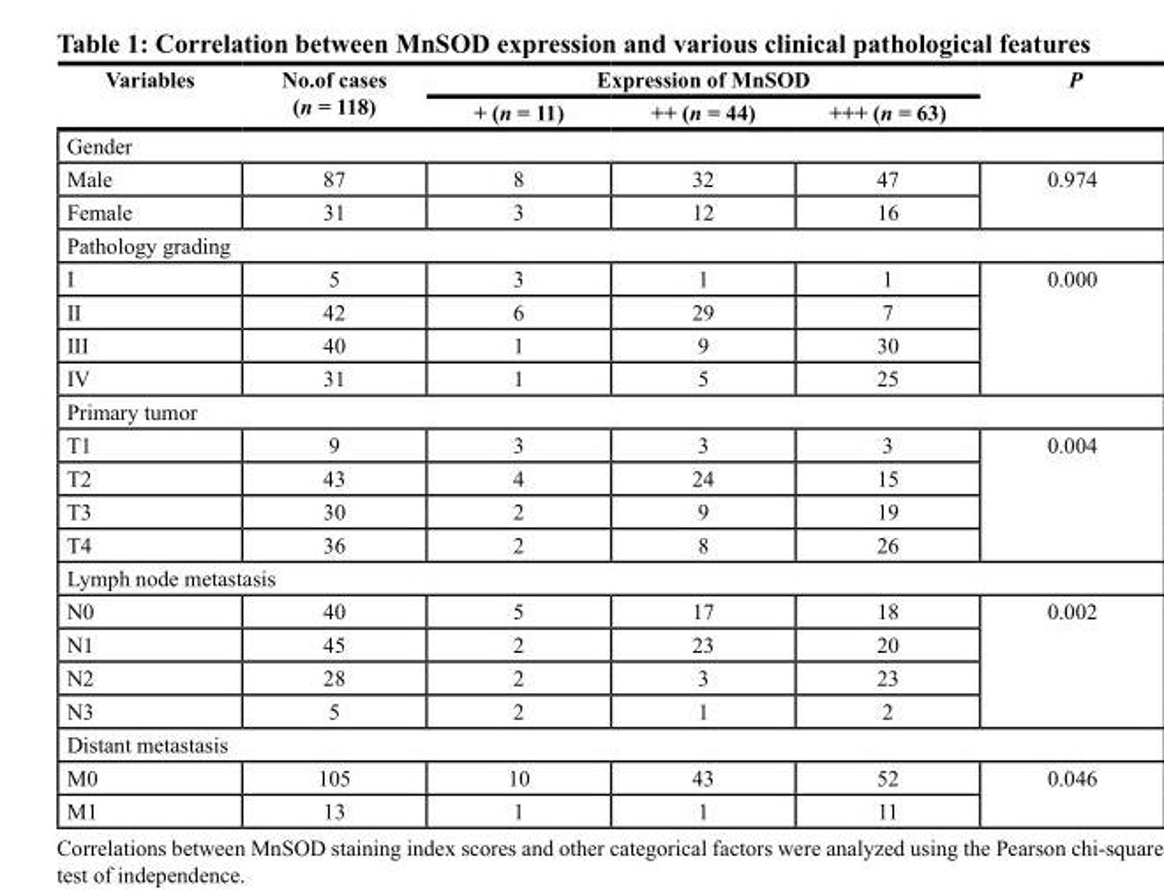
<table><thead><tr><td rowspan="2">Variables</td><td rowspan="2">No.of cases (n = 118)</td><td colspan="3">Expression of MnSOD</td><td rowspan="2">P</td></tr><tr><td>+ (n = 11)</td><td>++ (n = 44)</td><td>+++ (n = 63)</td></tr></thead><tbody><tr><td colspan="6">Gender</td></tr><tr><td>Male</td><td>87</td><td>8</td><td>32</td><td>47</td><td rowspan="2">0.974</td></tr><tr><td>Female</td><td>31</td><td>3</td><td>12</td><td>16</td></tr><tr><td colspan="6">Pathology grading</td></tr><tr><td>I</td><td>5</td><td>3</td><td>1</td><td>1</td><td rowspan="4">0.000</td></tr><tr><td>II</td><td>42</td><td>6</td><td>29</td><td>7</td></tr><tr><td>III</td><td>40</td><td>1</td><td>9</td><td>30</td></tr><tr><td>IV</td><td>31</td><td>1</td><td>5</td><td>25</td></tr><tr><td colspan="6">Primary tumor</td></tr><tr><td>T1</td><td>9</td><td>3</td><td>3</td><td>3</td><td rowspan="4">0.004</td></tr><tr><td>T2</td><td>43</td><td>4</td><td>24</td><td>15</td></tr><tr><td>T3</td><td>30</td><td>2</td><td>9</td><td>19</td></tr><tr><td>T4</td><td>36</td><td>2</td><td>8</td><td>26</td></tr><tr><td colspan="6">Lymph node metastasis</td></tr><tr><td>N0</td><td>40</td><td>5</td><td>17</td><td>18</td><td rowspan="4">0.002</td></tr><tr><td>N1</td><td>45</td><td>2</td><td>23</td><td>20</td></tr><tr><td>N2</td><td>28</td><td>2</td><td>3</td><td>23</td></tr><tr><td>N3</td><td>5</td><td>2</td><td>1</td><td>2</td></tr><tr><td colspan="6">Distant metastasis</td></tr><tr><td>M0</td><td>105</td><td>10</td><td>43</td><td>52</td><td rowspan="2">0.046</td></tr><tr><td>M1</td><td>13</td><td>1</td><td>1</td><td>11</td></tr></tbody></table>